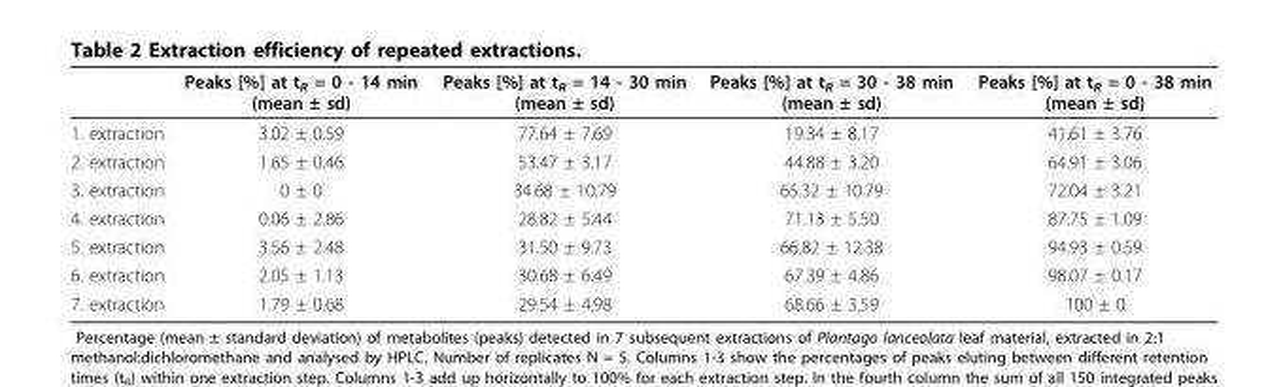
<table><thead><tr><td></td><td>Peaks [%] at t<sub>R</sub> = 0 - 14 min (mean ± sd)</td><td>Peaks [%] at t<sub>R</sub> = 14 - 30 min (mean ± sd)</td><td>Peaks [%] at t<sub>R</sub> = 30 - 38 min (mean ± sd)</td><td>Peaks [%] at t<sub>R</sub> = 0 - 38 min (mean ± sd)</td></tr></thead><tbody><tr><td>1. extraction</td><td>3.02 ± 0.59</td><td>77.64 ± 7.69</td><td>19.34 ± 8.17</td><td>41.61 ± 3.76</td></tr><tr><td>2. extraction</td><td>1.65 ± 0.46</td><td>53.47 ± 3.17</td><td>44.88 ± 3.20</td><td>64.91 ± 3.06</td></tr><tr><td>3. extraction</td><td>0 ± 0</td><td>34.68 ± 10.79</td><td>65.32 ± 10.79</td><td>72.04 ± 3.21</td></tr><tr><td>4. extraction</td><td>0.06 ± 2.86</td><td>28.82 ± 5.44</td><td>71.13 ± 5.50</td><td>87.75 ± 1.09</td></tr><tr><td>5. extraction</td><td>3.56 ± 2.48</td><td>31.50 ± 9.73</td><td>66.82 ± 12.38</td><td>94.93 ± 0.59</td></tr><tr><td>6. extraction</td><td>2.05 ± 1.13</td><td>30.68 ± 6.49</td><td>67.39 ± 4.86</td><td>98.07 ± 0.17</td></tr><tr><td>7. extraction</td><td>1.79 ± 0.68</td><td>29.54 ± 4.98</td><td>68.66 ± 3.59</td><td>100 ± 0</td></tr></tbody></table>